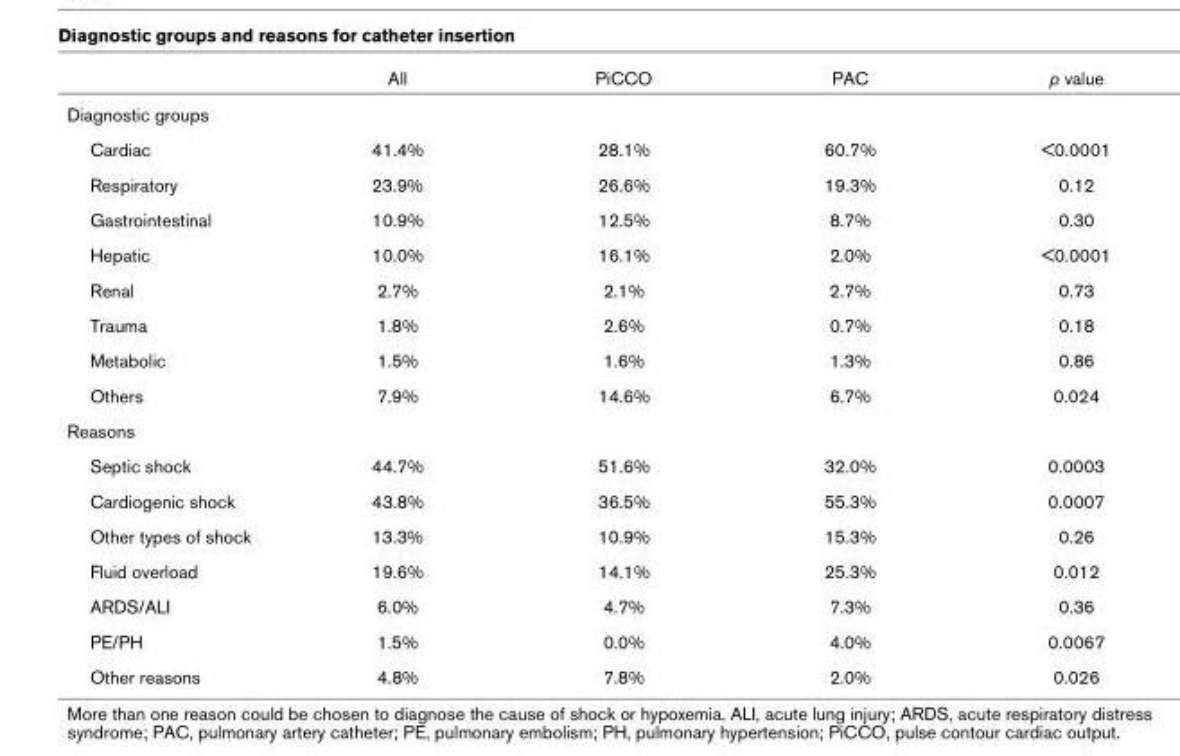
<table><thead><tr><td></td><td>All</td><td>PiCCO</td><td>PAC</td><td>p value</td></tr></thead><tbody><tr><td colspan="5">Diagnostic groups</td></tr><tr><td>Cardiac</td><td>41.4%</td><td>28.1%</td><td>60.7%</td><td>&lt;0.0001</td></tr><tr><td>Respiratory</td><td>23.9%</td><td>26.6%</td><td>19.3%</td><td>0.12</td></tr><tr><td>Gastrointestinal</td><td>10.9%</td><td>12.5%</td><td>8.7%</td><td>0.30</td></tr><tr><td>Hepatic</td><td>10.0%</td><td>16.1%</td><td>2.0%</td><td>&lt;0.0001</td></tr><tr><td>Renal</td><td>2.7%</td><td>2.1%</td><td>2.7%</td><td>0.73</td></tr><tr><td>Trauma</td><td>1.8%</td><td>2.6%</td><td>0.7%</td><td>0.18</td></tr><tr><td>Metabolic</td><td>1.5%</td><td>1.6%</td><td>1.3%</td><td>0.86</td></tr><tr><td>Others</td><td>7.9%</td><td>14.6%</td><td>6.7%</td><td>0.024</td></tr><tr><td colspan="5">Reasons</td></tr><tr><td>Septic shock</td><td>44.7%</td><td>51.6%</td><td>32.0%</td><td>0.0003</td></tr><tr><td>Cardiogenic shock</td><td>43.8%</td><td>36.5%</td><td>55.3%</td><td>0.0007</td></tr><tr><td>Other types of shock</td><td>13.3%</td><td>10.9%</td><td>15.3%</td><td>0.26</td></tr><tr><td>Fluid overload</td><td>19.6%</td><td>14.1%</td><td>25.3%</td><td>0.012</td></tr><tr><td>ARDS/ALI</td><td>6.0%</td><td>4.7%</td><td>7.3%</td><td>0.36</td></tr><tr><td>PE/PH</td><td>1.5%</td><td>0.0%</td><td>4.0%</td><td>0.0067</td></tr><tr><td>Other reasons</td><td>4.8%</td><td>7.8%</td><td>2.0%</td><td>0.026</td></tr></tbody></table>